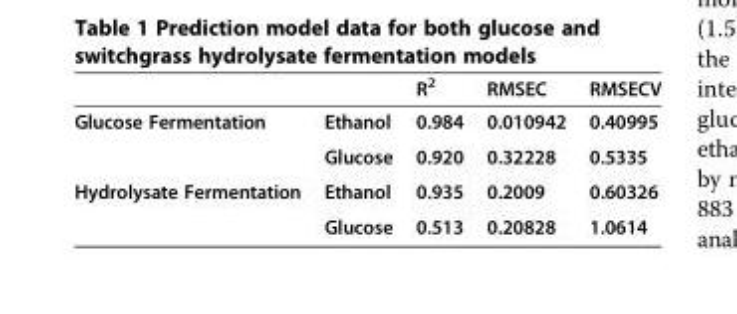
<table><thead><tr><td></td><td></td><td>R<sup>2</sup></td><td>RMSEC</td><td>RMSECV</td></tr></thead><tbody><tr><td rowspan="2">Glucose Fermentation</td><td>Ethanol</td><td>0.984</td><td>0.010942</td><td>0.40995</td></tr><tr><td>Glucose</td><td>0.920</td><td>0.32228</td><td>0.5335</td></tr><tr><td rowspan="2">Hydrolysate Fermentation</td><td>Ethanol</td><td>0.935</td><td>0.2009</td><td>0.60326</td></tr><tr><td>Glucose</td><td>0.513</td><td>0.20828</td><td>1.0614</td></tr></tbody></table>